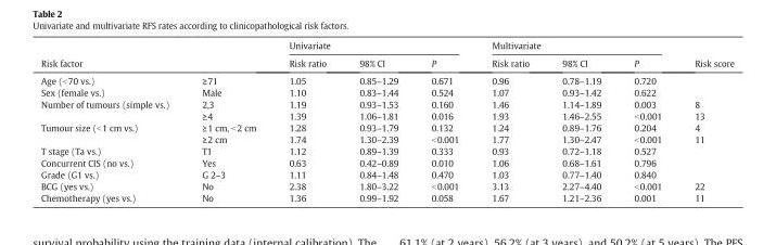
<table><thead><tr><td rowspan="2" colspan="2">Risk factor</td><td colspan="3">Univariate</td><td colspan="3">Multivariate</td><td rowspan="3">Risk score</td></tr><tr><td rowspan="2">Risk ratio 1.05</td><td rowspan="2">98% CI 0.85–1.29</td><td rowspan="2">P 0.671</td><td rowspan="2">Risk ratio 0.96</td><td rowspan="2">98% CI 0.78–1.19</td><td rowspan="2">P 0.720</td></tr><tr><td>Age (&lt;70 vs.)</td><td>≥71</td></tr></thead><tbody><tr><td>Sex (female vs.)</td><td>Male</td><td>1.10</td><td>0.83–1.44</td><td>0.524</td><td>1.07</td><td>0.93–1.42</td><td>0.622</td><td></td></tr><tr><td rowspan="2">Number of tumours (simple vs.)</td><td>2,3</td><td>1.19</td><td>0.93–1.53</td><td>0.160</td><td>1.46</td><td>1.14–1.89</td><td>0.003</td><td>8</td></tr><tr><td>≥4</td><td>1.39</td><td>1.06–1.81</td><td>0.016</td><td>1.93</td><td>1.46–2.55</td><td>&lt;0.001</td><td>13</td></tr><tr><td rowspan="2">Tumour size (&lt;1 cm vs.)</td><td>≥1 cm, &lt;2 cm</td><td>1.28</td><td>0.93–1.79</td><td>0.132</td><td>1.24</td><td>0.89–1.76</td><td>0.204</td><td>4</td></tr><tr><td>≥2 cm</td><td>1.74</td><td>1.30–2.39</td><td>&lt;0.001</td><td>1.77</td><td>1.30–2.47</td><td>&lt;0.001</td><td>11</td></tr><tr><td>T stage (Ta vs.)</td><td>T1</td><td>1.12</td><td>0.89–1.39</td><td>0.333</td><td>0.93</td><td>0.72–1.18</td><td>0.527</td><td></td></tr><tr><td>Concurrent CIS (no vs.)</td><td>Yes</td><td>0.63</td><td>0.42–0.89</td><td>0.010</td><td>1.06</td><td>0.68–1.61</td><td>0.796</td><td></td></tr><tr><td>Grade (G1 vs.)</td><td>G 2–3</td><td>1.11</td><td>0.84–1.48</td><td>0.470</td><td>1.03</td><td>0.77–1.40</td><td>0.840</td><td></td></tr><tr><td>BCG (yes vs.)</td><td>No</td><td>2.38</td><td>1.80–3.22</td><td>&lt;0.001</td><td>3.13</td><td>2.27–4.40</td><td>&lt;0.001</td><td>22</td></tr><tr><td>Chemotherapy (yes vs.)</td><td>No</td><td>1.36</td><td>0.99–1.92</td><td>0.058</td><td>1.67</td><td>1.21–2.36</td><td>0.001</td><td>11</td></tr></tbody></table>